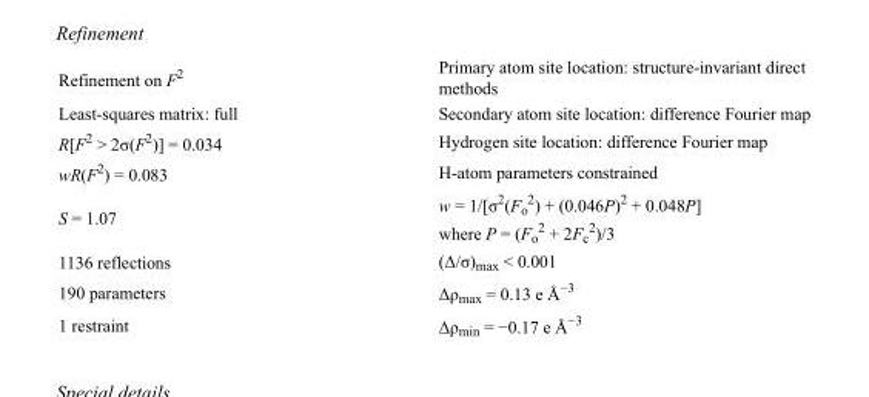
<table><tbody><tr><td>Refinement on F<sup>2</sup></td><td>Primary atom site location: structure-invariant direct methods</td></tr><tr><td>Least-squares matrix: full</td><td>Secondary atom site location: difference Fourier map</td></tr><tr><td>R[F<sup>2</sup> &gt; 2σ(F<sup>2</sup>)] = 0.034</td><td>Hydrogen site location: difference Fourier map</td></tr><tr><td>wR(F<sup>2</sup>) = 0.083</td><td>H-atom parameters constrained</td></tr><tr><td>S = 1.07</td><td>w = 1/[σ<sup>2</sup>(F<sub>o</sub> <sup>2</sup>) + (0.046P)<sup>2</sup> + 0.048P] where P = (F<sub>o</sub> <sup>2</sup> + 2F<sub>c</sub> <sup>2</sup>)/3</td></tr><tr><td>1136 reflections</td><td>(Δ/σ)<sub>max</sub> &lt; 0.001</td></tr><tr><td>190 parameters</td><td>Δρ<sub>max</sub> = 0.13 e Å<sup>−3</sup></td></tr><tr><td>1 restraint</td><td>Δρ<sub>min</sub> = −0.17 e Å<sup>−3</sup></td></tr></tbody></table>